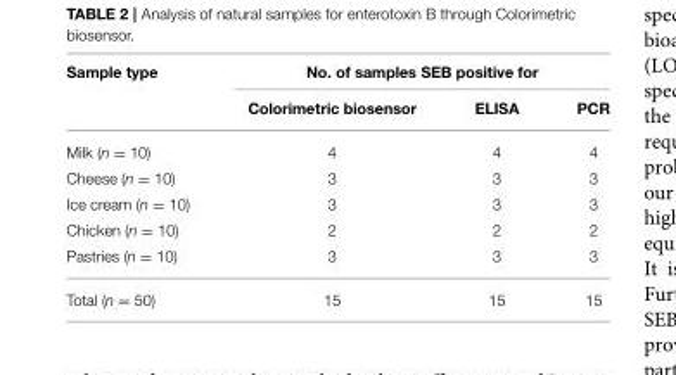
<table><thead><tr><td rowspan="2">Sample type</td><td colspan="3">No. of samples SEB positive for</td></tr><tr><td>Colorimetric biosensor</td><td>ELISA</td><td>PCR</td></tr></thead><tbody><tr><td>Milk (n = 10)</td><td>4</td><td>4</td><td>4</td></tr><tr><td>Cheese (n = 10)</td><td>3</td><td>3</td><td>3</td></tr><tr><td>Ice cream (n = 10)</td><td>3</td><td>3</td><td>3</td></tr><tr><td>Chicken (n = 10)</td><td>2</td><td>2</td><td>2</td></tr><tr><td>Pastries (n = 10)</td><td>3</td><td>3</td><td>3</td></tr><tr><td>Total (n = 50)</td><td>15</td><td>15</td><td>15</td></tr></tbody></table>